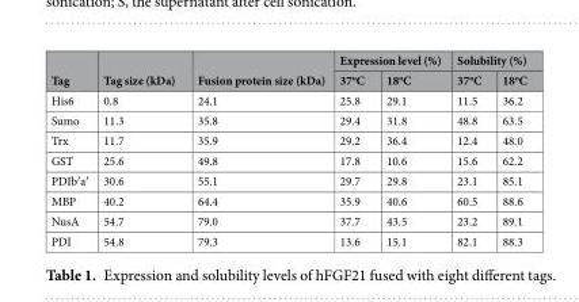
<table><thead><tr><td rowspan="2">Tag</td><td rowspan="2">Tag size (kDa)</td><td rowspan="2">Fusion protein size (kDa)</td><td colspan="2">Expression level (%)</td><td colspan="2">Solubility (%)</td></tr><tr><td>37<sup>o</sup>C</td><td>18<sup>o</sup>C</td><td>37<sup>o</sup>C</td><td>18<sup>o</sup>C</td></tr></thead><tbody><tr><td>His6</td><td>0.8</td><td>24.1</td><td>25.8</td><td>29.1</td><td>11.5</td><td>36.2</td></tr><tr><td>Sumo</td><td>11.3</td><td>35.8</td><td>29.4</td><td>31.8</td><td>48.8</td><td>63.5</td></tr><tr><td>Trx</td><td>11.7</td><td>35.9</td><td>29.2</td><td>36.4</td><td>12.4</td><td>48.0</td></tr><tr><td>GST</td><td>25.6</td><td>49.8</td><td>17.8</td><td>10.6</td><td>15.6</td><td>62.2</td></tr><tr><td>PDIb′a′</td><td>30.6</td><td>55.1</td><td>29.7</td><td>29.8</td><td>23.1</td><td>85.1</td></tr><tr><td>MBP</td><td>40.2</td><td>64.4</td><td>35.9</td><td>40.6</td><td>60.5</td><td>88.6</td></tr><tr><td>NusA</td><td>54.7</td><td>79.0</td><td>37.7</td><td>43.5</td><td>23.2</td><td>89.1</td></tr><tr><td>PDI</td><td>54.8</td><td>79.3</td><td>13.6</td><td>15.1</td><td>82.1</td><td>88.3</td></tr></tbody></table>